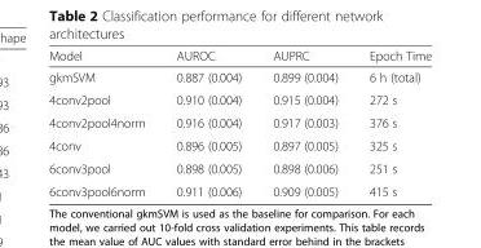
<table><thead><tr><td>Model</td><td>AUROC</td><td>AUPRC</td><td>Epoch Time</td></tr></thead><tbody><tr><td>gkmSVM</td><td>0.887 (0.004)</td><td>0.899 (0.004)</td><td>6 h (total)</td></tr><tr><td>4conv2pool</td><td>0.910 (0.004)</td><td>0.915 (0.004)</td><td>272 s</td></tr><tr><td>4conv2pool4norm</td><td>0.916 (0.004)</td><td>0.917 (0.003)</td><td>376 s</td></tr><tr><td>4conv</td><td>0.896 (0.005)</td><td>0.897 (0.005)</td><td>325 s</td></tr><tr><td>6conv3pool</td><td>0.898 (0.005)</td><td>0.898 (0.006)</td><td>251 s</td></tr><tr><td>6conv3pool6norm</td><td>0.911 (0.006)</td><td>0.909 (0.005)</td><td>415 s</td></tr></tbody></table>